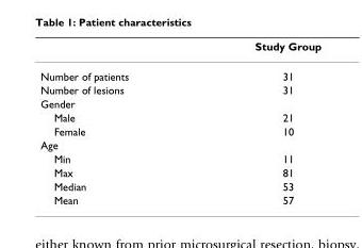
<table><thead><tr><td></td><td>Study Group</td></tr></thead><tbody><tr><td>Number of patients</td><td>31</td></tr><tr><td>Number of lesions</td><td>31</td></tr><tr><td colspan="2">Gender</td></tr><tr><td>Male</td><td>21</td></tr><tr><td>Female</td><td>10</td></tr><tr><td colspan="2">Age</td></tr><tr><td>Min</td><td>11</td></tr><tr><td>Max</td><td>81</td></tr><tr><td>Median</td><td>53</td></tr><tr><td>Mean</td><td>57</td></tr></tbody></table>